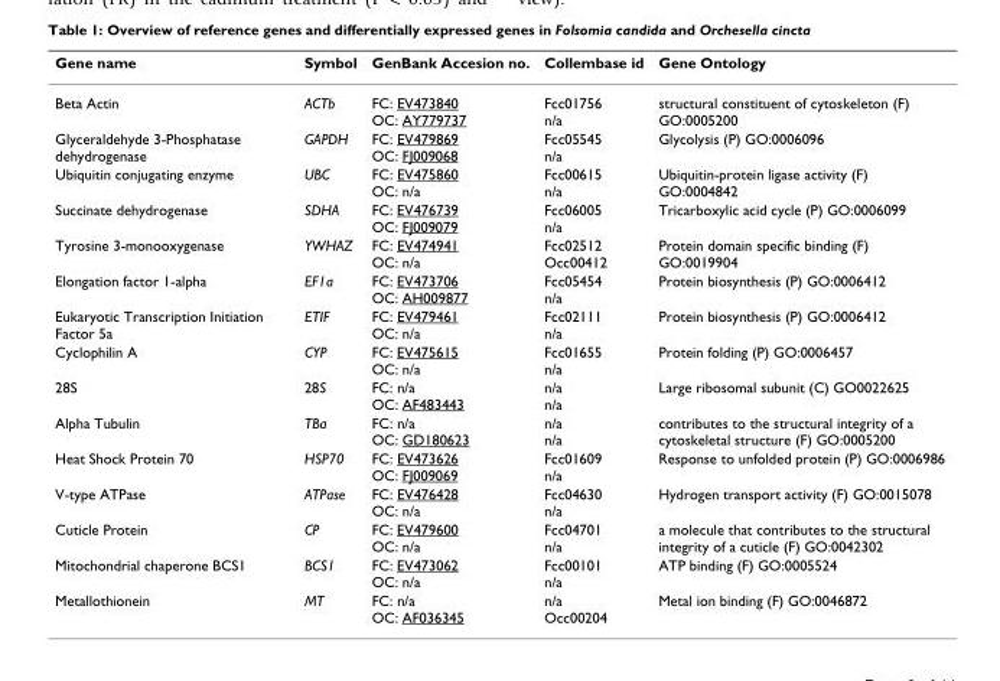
<table><thead><tr><td>Gene name</td><td>Symbol</td><td>GenBank Accesion no.</td><td>Collembase id</td><td>Gene Ontology</td></tr></thead><tbody><tr><td>Beta Actin</td><td>ACTb</td><td>FC: EV473840 OC: AY779737</td><td>Fcc01756 n/a</td><td>structural constituent of cytoskeleton (F) GO:0005200</td></tr><tr><td>Glyceraldehyde 3-Phosphatase dehydrogenase</td><td>GAPDH</td><td>FC: EV479869 OC: FJ009068</td><td>Fcc05545 n/a</td><td>Glycolysis (P) GO:0006096</td></tr><tr><td>Ubiquitin conjugating enzyme</td><td>UBC</td><td>FC: EV475860 OC: n/a</td><td>Fcc00615 n/a</td><td>Ubiquitin-protein ligase activity (F) GO:0004842</td></tr><tr><td>Succinate dehydrogenase</td><td>SDHA</td><td>FC: EV476739 OC: FJ009079</td><td>Fcc06005 n/a</td><td>Tricarboxylic acid cycle (P) GO:0006099</td></tr><tr><td>Tyrosine 3-monooxygenase</td><td>YWHAZ</td><td>FC: EV474941 OC: n/a</td><td>Fcc02512 Occ00412</td><td>Protein domain specific binding (F) GO:0019904</td></tr><tr><td>Elongation factor 1-alpha</td><td>EF1a</td><td>FC: EV473706 OC: AH009877</td><td>Fcc05454 n/a</td><td>Protein biosynthesis (P) GO:0006412</td></tr><tr><td>Eukaryotic Transcription Initiation Factor 5a</td><td>ETIF</td><td>FC: EV479461 OC: n/a</td><td>Fcc02111 n/a</td><td>Protein biosynthesis (P) GO:0006412</td></tr><tr><td>Cyclophilin A</td><td>CYP</td><td>FC: EV475615 OC: n/a</td><td>Fcc01655 n/a</td><td>Protein folding (P) GO:0006457</td></tr><tr><td>28S</td><td>28S</td><td>FC: n/a OC: AF483443</td><td>n/a n/a</td><td>Large ribosomal subunit (C) GO0022625</td></tr><tr><td>Alpha Tubulin</td><td>TBa</td><td>FC: n/a OC: GD180623</td><td>n/a n/a</td><td>contributes to the structural integrity of a cytoskeletal structure (F) GO:0005200</td></tr><tr><td>Heat Shock Protein 70</td><td>HSP70</td><td>FC: EV473626 OC: FJ009069</td><td>Fcc01609 n/a</td><td>Response to unfolded protein (P) GO:0006986</td></tr><tr><td>V-type ATPase</td><td>ATPase</td><td>FC: EV476428 OC: n/a</td><td>Fcc04630 n/a</td><td>Hydrogen transport activity (F) GO:0015078</td></tr><tr><td>Cuticle Protein</td><td>CP</td><td>FC: EV479600 OC: n/a</td><td>Fcc04701 n/a</td><td>a molecule that contributes to the structural integrity of a cuticle (F) GO:0042302</td></tr><tr><td>Mitochondrial chaperone BCS1</td><td>BCS1</td><td>FC: EV473062 OC: n/a</td><td>Fcc00101 n/a</td><td>ATP binding (F) GO:0005524</td></tr><tr><td>Metallothionein</td><td>MT</td><td>FC: n/a OC: AF036345</td><td>n/a Occ00204</td><td>Metal ion binding (F) GO:0046872</td></tr></tbody></table>